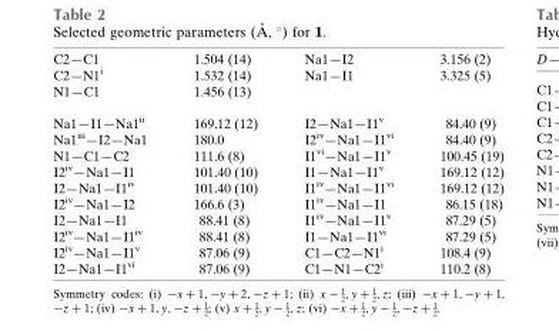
<table><tbody><tr><td>C2—C1</td><td>1.504 (14)</td><td>Na1—I2</td><td>3.156 (2)</td></tr><tr><td>C2—N1<sup>i</sup></td><td>1.532 (14)</td><td>Na1—I1</td><td>3.325 (5)</td></tr><tr><td>N1—C1</td><td>1.456 (13)</td><td></td><td></td></tr><tr><td>Na1—I1—Na1<sup>ii</sup></td><td>169.12 (12)</td><td>I2—Na1—I1<sup>v</sup></td><td>84.40 (9)</td></tr><tr><td>Na1<sup>iii</sup>—I2—Na1</td><td>180.0</td><td>I2<sup>iv</sup>—Na1—I1<sup>vi</sup></td><td>84.40 (9)</td></tr><tr><td>N1—C1—C2</td><td>111.6 (8)</td><td>I1<sup>vi</sup>—Na1—I1<sup>v</sup></td><td>100.45 (19)</td></tr><tr><td>I2<sup>iv</sup>—Na1—I1</td><td>101.40 (10)</td><td>I1—Na1—I1<sup>v</sup></td><td>169.12 (12)</td></tr><tr><td>I2—Na1—I1<sup>iv</sup></td><td>101.40 (10)</td><td>I1<sup>iv</sup>—Na1—I1<sup>vi</sup></td><td>169.12 (12)</td></tr><tr><td>I2<sup>iv</sup>—Na1—I2</td><td>166.6 (3)</td><td>I1<sup>iv</sup>—Na1—I1</td><td>86.15 (18)</td></tr><tr><td>I2—Na1—I1</td><td>88.41 (8)</td><td>I1<sup>iv</sup>—Na1—I1<sup>v</sup></td><td>87.29 (5)</td></tr><tr><td>I2<sup>iv</sup>—Na1—I1<sup>iv</sup></td><td>88.41 (8)</td><td>I1—Na1—I1<sup>vi</sup></td><td>87.29 (5)</td></tr><tr><td>I2<sup>iv</sup>—Na1—I1<sup>v</sup></td><td>87.06 (9)</td><td>C1—C2—N1<sup>i</sup></td><td>108.4 (9)</td></tr><tr><td>I2—Na1—I1<sup>vi</sup></td><td>87.06 (9)</td><td>C1—N1—C2<sup>i</sup></td><td>110.2 (8)</td></tr></tbody></table>